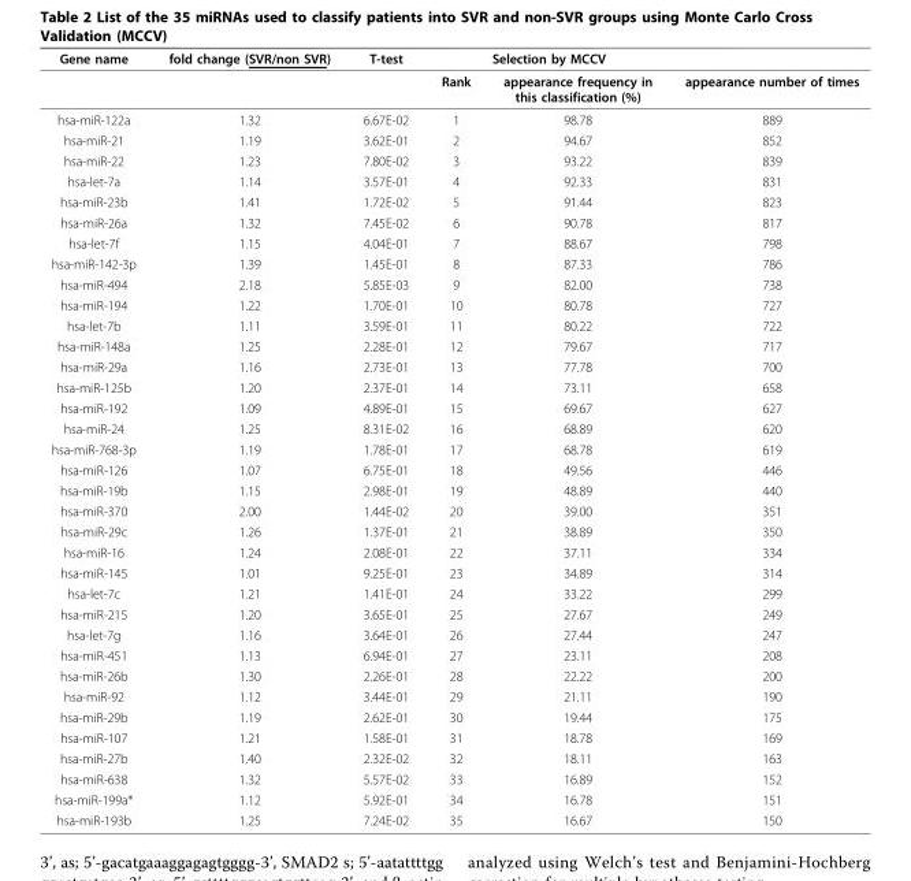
<table><thead><tr><td rowspan="2">Gene name</td><td rowspan="2">fold change (SVR/non SVR)</td><td rowspan="2">T-test</td><td rowspan="2">Rank</td><td colspan="2">Selection by MCCV</td></tr><tr><td>appearance frequency in this classification (%)</td><td>appearance number of times</td></tr></thead><tbody><tr><td>hsa-miR-122a</td><td>1.32</td><td>6.67E-02</td><td>1</td><td>98.78</td><td>889</td></tr><tr><td>hsa-miR-21</td><td>1.19</td><td>3.62E-01</td><td>2</td><td>94.67</td><td>852</td></tr><tr><td>hsa-miR-22</td><td>1.23</td><td>7.80E-02</td><td>3</td><td>93.22</td><td>839</td></tr><tr><td>hsa-let-7a</td><td>1.14</td><td>3.57E-01</td><td>4</td><td>92.33</td><td>831</td></tr><tr><td>hsa-miR-23b</td><td>1.41</td><td>1.72E-02</td><td>5</td><td>91.44</td><td>823</td></tr><tr><td>hsa-miR-26a</td><td>1.32</td><td>7.45E-02</td><td>6</td><td>90.78</td><td>817</td></tr><tr><td>hsa-let-7f</td><td>1.15</td><td>4.04E-01</td><td>7</td><td>88.67</td><td>798</td></tr><tr><td>hsa-miR-142-3p</td><td>1.39</td><td>1.45E-01</td><td>8</td><td>87.33</td><td>786</td></tr><tr><td>hsa-miR-494</td><td>2.18</td><td>5.85E-03</td><td>9</td><td>82.00</td><td>738</td></tr><tr><td>hsa-miR-194</td><td>1.22</td><td>1.70E-01</td><td>10</td><td>80.78</td><td>727</td></tr><tr><td>hsa-let-7b</td><td>1.11</td><td>3.59E-01</td><td>11</td><td>80.22</td><td>722</td></tr><tr><td>hsa-miR-148a</td><td>1.25</td><td>2.28E-01</td><td>12</td><td>79.67</td><td>717</td></tr><tr><td>hsa-miR-29a</td><td>1.16</td><td>2.73E-01</td><td>13</td><td>77.78</td><td>700</td></tr><tr><td>hsa-miR-125b</td><td>1.20</td><td>2.37E-01</td><td>14</td><td>73.11</td><td>658</td></tr><tr><td>hsa-miR-192</td><td>1.09</td><td>4.89E-01</td><td>15</td><td>69.67</td><td>627</td></tr><tr><td>hsa-miR-24</td><td>1.25</td><td>8.31E-02</td><td>16</td><td>68.89</td><td>620</td></tr><tr><td>hsa-miR-768-3p</td><td>1.19</td><td>1.78E-01</td><td>17</td><td>68.78</td><td>619</td></tr><tr><td>hsa-miR-126</td><td>1.07</td><td>6.75E-01</td><td>18</td><td>49.56</td><td>446</td></tr><tr><td>hsa-miR-19b</td><td>1.15</td><td>2.98E-01</td><td>19</td><td>48.89</td><td>440</td></tr><tr><td>hsa-miR-370</td><td>2.00</td><td>1.44E-02</td><td>20</td><td>39.00</td><td>351</td></tr><tr><td>hsa-miR-29c</td><td>1.26</td><td>1.37E-01</td><td>21</td><td>38.89</td><td>350</td></tr><tr><td>hsa-miR-16</td><td>1.24</td><td>2.08E-01</td><td>22</td><td>37.11</td><td>334</td></tr><tr><td>hsa-miR-145</td><td>1.01</td><td>9.25E-01</td><td>23</td><td>34.89</td><td>314</td></tr><tr><td>hsa-let-7c</td><td>1.21</td><td>1.41E-01</td><td>24</td><td>33.22</td><td>299</td></tr><tr><td>hsa-miR-215</td><td>1.20</td><td>3.65E-01</td><td>25</td><td>27.67</td><td>249</td></tr><tr><td>hsa-let-7g</td><td>1.16</td><td>3.64E-01</td><td>26</td><td>27.44</td><td>247</td></tr><tr><td>hsa-miR-451</td><td>1.13</td><td>6.94E-01</td><td>27</td><td>23.11</td><td>208</td></tr><tr><td>hsa-miR-26b</td><td>1.30</td><td>2.26E-01</td><td>28</td><td>22.22</td><td>200</td></tr><tr><td>hsa-miR-92</td><td>1.12</td><td>3.44E-01</td><td>29</td><td>21.11</td><td>190</td></tr><tr><td>hsa-miR-29b</td><td>1.19</td><td>2.62E-01</td><td>30</td><td>19.44</td><td>175</td></tr><tr><td>hsa-miR-107</td><td>1.21</td><td>1.58E-01</td><td>31</td><td>18.78</td><td>169</td></tr><tr><td>hsa-miR-27b</td><td>1.40</td><td>2.32E-02</td><td>32</td><td>18.11</td><td>163</td></tr><tr><td>hsa-miR-638</td><td>1.32</td><td>5.57E-02</td><td>33</td><td>16.89</td><td>152</td></tr><tr><td>hsa-miR-199a*</td><td>1.12</td><td>5.92E-01</td><td>34</td><td>16.78</td><td>151</td></tr><tr><td>hsa-miR-193b</td><td>1.25</td><td>7.24E-02</td><td>35</td><td>16.67</td><td>150</td></tr></tbody></table>